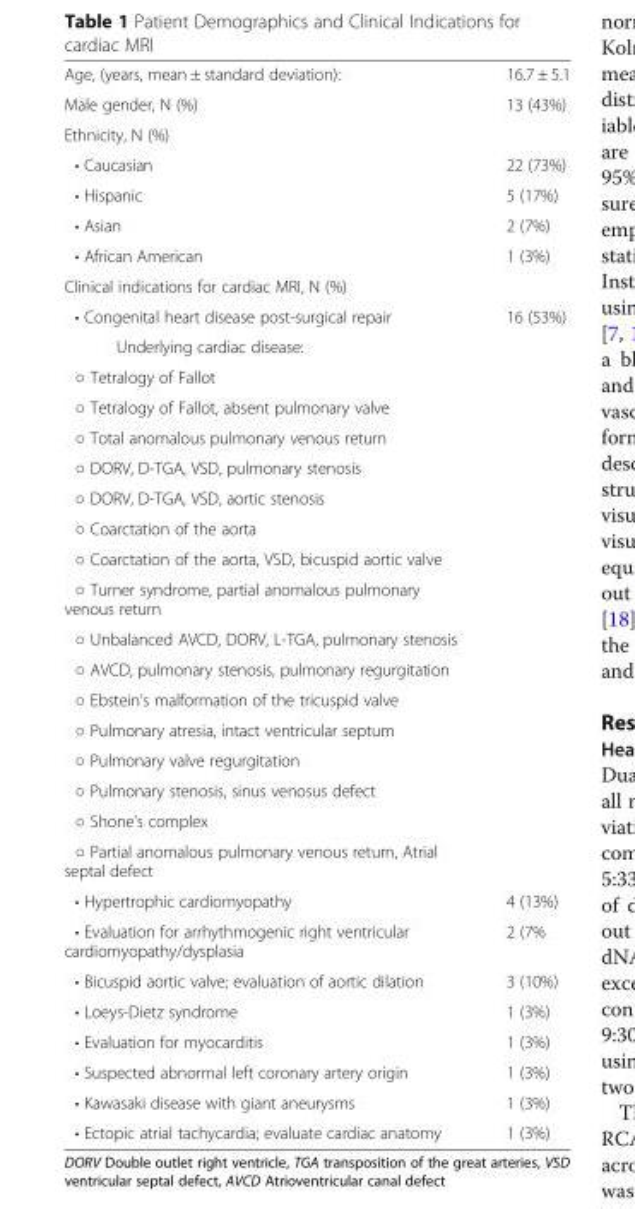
<table><tbody><tr><td>Age, (years, mean ± standard deviation):</td><td>16.7 ± 5.1</td></tr><tr><td>Male gender, N (%)</td><td>13 (43%)</td></tr><tr><td colspan="2">Ethnicity, N (%)</td></tr><tr><td>• Caucasian</td><td>22 (73%)</td></tr><tr><td>• Hispanic</td><td>5 (17%)</td></tr><tr><td>• Asian</td><td>2 (7%)</td></tr><tr><td>• African American</td><td>1 (3%)</td></tr><tr><td colspan="2">Clinical indications for cardiac MRI, N (%)</td></tr><tr><td>• Congenital heart disease post-surgical repair</td><td>16 (53%)</td></tr><tr><td colspan="2">Underlying cardiac disease:</td></tr><tr><td colspan="2">○ Tetralogy of Fallot</td></tr><tr><td colspan="2">○ Tetralogy of Fallot, absent pulmonary valve</td></tr><tr><td colspan="2">○ Total anomalous pulmonary venous return</td></tr><tr><td colspan="2">○ DORV, D-TGA, VSD, pulmonary stenosis</td></tr><tr><td colspan="2">○ DORV, D-TGA, VSD, aortic stenosis</td></tr><tr><td colspan="2">○ Coarctation of the aorta</td></tr><tr><td colspan="2">○ Coarctation of the aorta, VSD, bicuspid aortic valve</td></tr><tr><td colspan="2">○ Turner syndrome, partial anomalous pulmonary venous return</td></tr><tr><td colspan="2">○ Unbalanced AVCD, DORV, L-TGA, pulmonary stenosis</td></tr><tr><td colspan="2">○ AVCD, pulmonary stenosis, pulmonary regurgitation</td></tr><tr><td colspan="2">○ Ebstein’s malformation of the tricuspid valve</td></tr><tr><td colspan="2">○ Pulmonary atresia, intact ventricular septum</td></tr><tr><td colspan="2">○ Pulmonary valve regurgitation</td></tr><tr><td colspan="2">○ Pulmonary stenosis, sinus venosus defect</td></tr><tr><td colspan="2">○ Shone’s complex</td></tr><tr><td colspan="2">○ Partial anomalous pulmonary venous return, Atrial septal defect</td></tr><tr><td>• Hypertrophic cardiomyopathy</td><td>4 (13%)</td></tr><tr><td>• Evaluation for arrhythmogenic right ventricular cardiomyopathy/dysplasia</td><td>2 (7%</td></tr><tr><td>• Bicuspid aortic valve; evaluation of aortic dilation</td><td>3 (10%)</td></tr><tr><td>• Loeys-Dietz syndrome</td><td>1 (3%)</td></tr><tr><td>• Evaluation for myocarditis</td><td>1 (3%)</td></tr><tr><td>• Suspected abnormal left coronary artery origin</td><td>1 (3%)</td></tr><tr><td>• Kawasaki disease with giant aneurysms</td><td>1 (3%)</td></tr><tr><td>• Ectopic atrial tachycardia; evaluate cardiac anatomy</td><td>1 (3%)</td></tr></tbody></table>